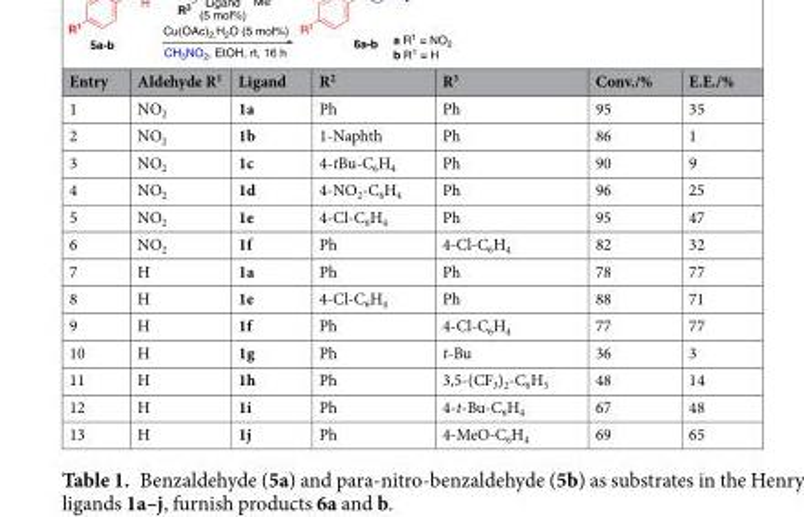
<table><thead><tr><td>Entry</td><td>Aldehyde R<sup>1</sup></td><td>Ligand</td><td>R<sup>2</sup></td><td>R<sup>3</sup></td><td>Conv./%</td><td>E.E./%</td></tr></thead><tbody><tr><td>1</td><td>NO<sub>2</sub></td><td>1a</td><td>Ph</td><td>Ph</td><td>95</td><td>35</td></tr><tr><td>2</td><td>NO<sub>2</sub></td><td>1b</td><td>1-Naphth</td><td>Ph</td><td>86</td><td>1</td></tr><tr><td>3</td><td>NO<sub>2</sub></td><td>1c</td><td>4-tBu-C<sub>6</sub>H<sub>4</sub></td><td>Ph</td><td>90</td><td>9</td></tr><tr><td>4</td><td>NO<sub>2</sub></td><td>1d</td><td>4-NO<sub>2</sub>-C<sub>6</sub>H<sub>4</sub></td><td>Ph</td><td>96</td><td>25</td></tr><tr><td>5</td><td>NO<sub>2</sub></td><td>1e</td><td>4-Cl-C<sub>6</sub>H<sub>4</sub></td><td>Ph</td><td>95</td><td>47</td></tr><tr><td>6</td><td>NO<sub>2</sub></td><td>1f</td><td>Ph</td><td>4-Cl-C<sub>6</sub>H<sub>4</sub></td><td>82</td><td>32</td></tr><tr><td>7</td><td>H</td><td>1a</td><td>Ph</td><td>Ph</td><td>78</td><td>77</td></tr><tr><td>8</td><td>H</td><td>1e</td><td>4-Cl-C<sub>6</sub>H<sub>4</sub></td><td>Ph</td><td>88</td><td>71</td></tr><tr><td>9</td><td>H</td><td>1f</td><td>Ph</td><td>4-Cl-C<sub>6</sub>H<sub>4</sub></td><td>77</td><td>77</td></tr><tr><td>10</td><td>H</td><td>1g</td><td>Ph</td><td>t-Bu</td><td>36</td><td>3</td></tr><tr><td>11</td><td>H</td><td>1h</td><td>Ph</td><td>3,5-(CF<sub>3</sub>)<sub>2</sub>-C<sub>6</sub>H<sub>3</sub></td><td>48</td><td>14</td></tr><tr><td>12</td><td>H</td><td>1i</td><td>Ph</td><td>4-t-Bu-C<sub>6</sub>H<sub>4</sub></td><td>67</td><td>48</td></tr><tr><td>13</td><td>H</td><td>1j</td><td>Ph</td><td>4-MeO-C<sub>6</sub>H<sub>4</sub></td><td>69</td><td>65</td></tr></tbody></table>